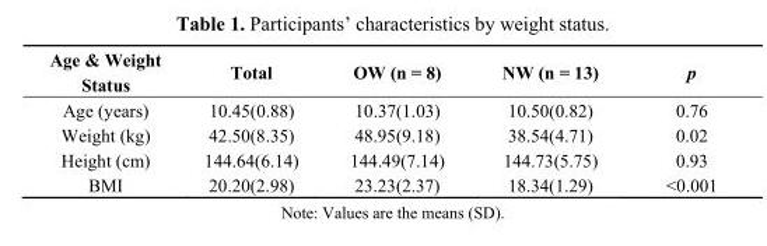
<table><thead><tr><td>Age &amp; Weight Status</td><td>Total</td><td>OW (n = 8)</td><td>NW (n = 13)</td><td>p</td></tr></thead><tbody><tr><td>Age (years)</td><td>10.45(0.88)</td><td>10.37(1.03)</td><td>10.50(0.82)</td><td>0.76</td></tr><tr><td>Weight (kg)</td><td>42.50(8.35)</td><td>48.95(9.18)</td><td>38.54(4.71)</td><td>0.02</td></tr><tr><td>Height (cm)</td><td>144.64(6.14)</td><td>144.49(7.14)</td><td>144.73(5.75)</td><td>0.93</td></tr><tr><td>BMI</td><td>20.20(2.98)</td><td>23.23(2.37)</td><td>18.34(1.29)</td><td>&lt;0.001</td></tr></tbody></table>